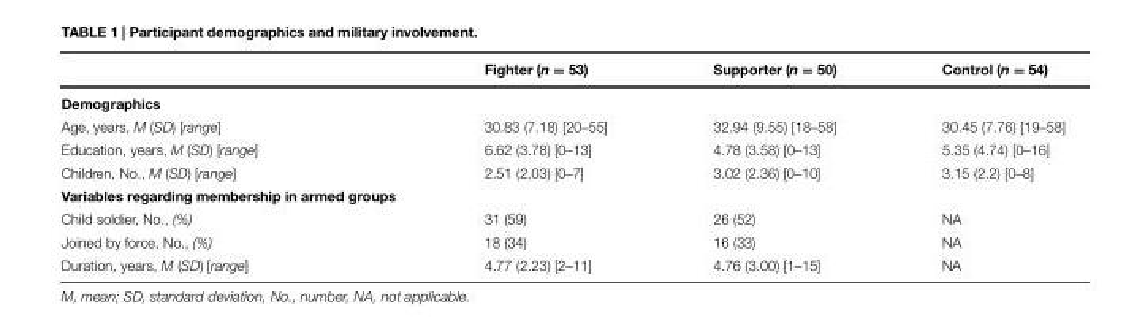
<table><thead><tr><td></td><td>Fighter (n = 53)</td><td>Supporter (n = 50)</td><td>Control (n = 54)</td></tr></thead><tbody><tr><td colspan="4">Demographics</td></tr><tr><td>Age, years, M (SD) [range]</td><td>30.83 (7.18) [20–55]</td><td>32.94 (9.55) [18–58]</td><td>30.45 (7.76) [19–58]</td></tr><tr><td>Education, years, M (SD) [range]</td><td>6.62 (3.78) [0–13]</td><td>4.78 (3.58) [0–13]</td><td>5.35 (4.74) [0–16]</td></tr><tr><td>Children, No., M (SD) [range]</td><td>2.51 (2.03) [0–7]</td><td>3.02 (2.36) [0–10]</td><td>3.15 (2.2) [0–8]</td></tr><tr><td colspan="4">Variables regarding membership in armed groups</td></tr><tr><td>Child soldier, No., (%)</td><td>31 (59)</td><td>26 (52)</td><td>NA</td></tr><tr><td>Joined by force, No., (%)</td><td>18 (34)</td><td>16 (33)</td><td>NA</td></tr><tr><td>Duration, years, M (SD) [range]</td><td>4.77 (2.23) [2–11]</td><td>4.76 (3.00) [1–15]</td><td>NA</td></tr></tbody></table>